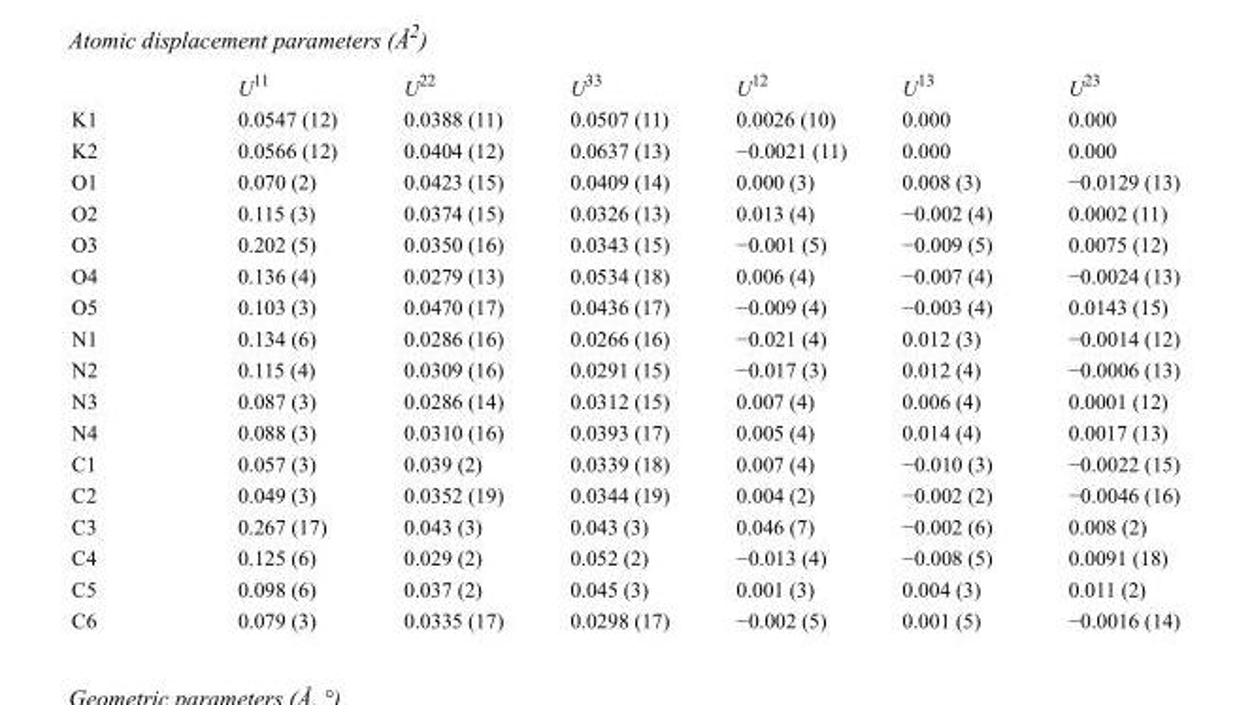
<table><thead><tr><td></td><td>U<sup>11</sup></td><td>U<sup>22</sup></td><td>U<sup>33</sup></td><td>U<sup>12</sup></td><td>U<sup>13</sup></td><td>U<sup>23</sup></td></tr></thead><tbody><tr><td>K1</td><td>0.0547 (12)</td><td>0.0388 (11)</td><td>0.0507 (11)</td><td>0.0026 (10)</td><td>0.000</td><td>0.000</td></tr><tr><td>K2</td><td>0.0566 (12)</td><td>0.0404 (12)</td><td>0.0637 (13)</td><td>−0.0021 (11)</td><td>0.000</td><td>0.000</td></tr><tr><td>O1</td><td>0.070 (2)</td><td>0.0423 (15)</td><td>0.0409 (14)</td><td>0.000 (3)</td><td>0.008 (3)</td><td>−0.0129 (13)</td></tr><tr><td>O2</td><td>0.115 (3)</td><td>0.0374 (15)</td><td>0.0326 (13)</td><td>0.013 (4)</td><td>−0.002 (4)</td><td>0.0002 (11)</td></tr><tr><td>O3</td><td>0.202 (5)</td><td>0.0350 (16)</td><td>0.0343 (15)</td><td>−0.001 (5)</td><td>−0.009 (5)</td><td>0.0075 (12)</td></tr><tr><td>O4</td><td>0.136 (4)</td><td>0.0279 (13)</td><td>0.0534 (18)</td><td>0.006 (4)</td><td>−0.007 (4)</td><td>−0.0024 (13)</td></tr><tr><td>O5</td><td>0.103 (3)</td><td>0.0470 (17)</td><td>0.0436 (17)</td><td>−0.009 (4)</td><td>−0.003 (4)</td><td>0.0143 (15)</td></tr><tr><td>N1</td><td>0.134 (6)</td><td>0.0286 (16)</td><td>0.0266 (16)</td><td>−0.021 (4)</td><td>0.012 (3)</td><td>−0.0014 (12)</td></tr><tr><td>N2</td><td>0.115 (4)</td><td>0.0309 (16)</td><td>0.0291 (15)</td><td>−0.017 (3)</td><td>0.012 (4)</td><td>−0.0006 (13)</td></tr><tr><td>N3</td><td>0.087 (3)</td><td>0.0286 (14)</td><td>0.0312 (15)</td><td>0.007 (4)</td><td>0.006 (4)</td><td>0.0001 (12)</td></tr><tr><td>N4</td><td>0.088 (3)</td><td>0.0310 (16)</td><td>0.0393 (17)</td><td>0.005 (4)</td><td>0.014 (4)</td><td>0.0017 (13)</td></tr><tr><td>C1</td><td>0.057 (3)</td><td>0.039 (2)</td><td>0.0339 (18)</td><td>0.007 (4)</td><td>−0.010 (3)</td><td>−0.0022 (15)</td></tr><tr><td>C2</td><td>0.049 (3)</td><td>0.0352 (19)</td><td>0.0344 (19)</td><td>0.004 (2)</td><td>−0.002 (2)</td><td>−0.0046 (16)</td></tr><tr><td>C3</td><td>0.267 (17)</td><td>0.043 (3)</td><td>0.043 (3)</td><td>0.046 (7)</td><td>−0.002 (6)</td><td>0.008 (2)</td></tr><tr><td>C4</td><td>0.125 (6)</td><td>0.029 (2)</td><td>0.052 (2)</td><td>−0.013 (4)</td><td>−0.008 (5)</td><td>0.0091 (18)</td></tr><tr><td>C5</td><td>0.098 (6)</td><td>0.037 (2)</td><td>0.045 (3)</td><td>0.001 (3)</td><td>0.004 (3)</td><td>0.011 (2)</td></tr><tr><td>C6</td><td>0.079 (3)</td><td>0.0335 (17)</td><td>0.0298 (17)</td><td>−0.002 (5)</td><td>0.001 (5)</td><td>−0.0016 (14)</td></tr></tbody></table>